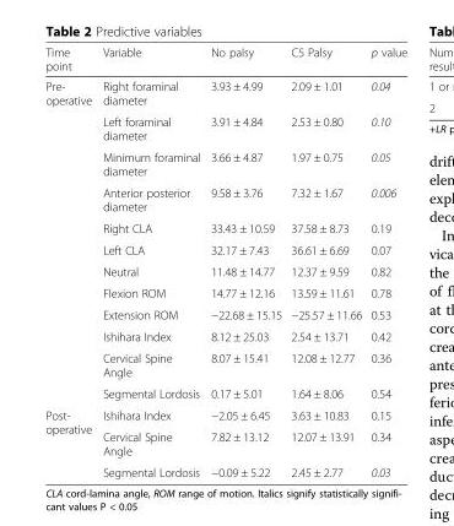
<table><thead><tr><td>Time point</td><td>Variable</td><td>No palsy</td><td>C5 Palsy</td><td>p value</td></tr></thead><tbody><tr><td rowspan="12">Pre- operative</td><td>Right foraminal diameter</td><td>3.93 ± 4.99</td><td>2.09 ± 1.01</td><td>0.04</td></tr><tr><td>Left foraminal diameter</td><td>3.91 ± 4.84</td><td>2.53 ± 0.80</td><td>0.10</td></tr><tr><td>Minimum foraminal diameter</td><td>3.66 ± 4.87</td><td>1.97 ± 0.75</td><td>0.05</td></tr><tr><td>Anterior posterior diameter</td><td>9.58 ± 3.76</td><td>7.32 ± 1.67</td><td>0.006</td></tr><tr><td>Right CLA</td><td>33.43 ± 10.59</td><td>37.58 ± 8.73</td><td>0.19</td></tr><tr><td>Left CLA</td><td>32.17 ± 7.43</td><td>36.61 ± 6.69</td><td>0.07</td></tr><tr><td>Neutral</td><td>11.48 ± 14.77</td><td>12.37 ± 9.59</td><td>0.82</td></tr><tr><td>Flexion ROM</td><td>14.77 ± 12.16</td><td>13.59 ± 11.61</td><td>0.78</td></tr><tr><td>Extension ROM</td><td>−22.68 ± 15.15</td><td>−25.57 ± 11.66</td><td>0.53</td></tr><tr><td>Ishihara Index</td><td>8.12 ± 25.03</td><td>2.54 ± 13.71</td><td>0.42</td></tr><tr><td>Cervical Spine Angle</td><td>8.07 ± 15.41</td><td>12.08 ± 12.77</td><td>0.36</td></tr><tr><td>Segmental Lordosis</td><td>0.17 ± 5.01</td><td>1.64 ± 8.06</td><td>0.54</td></tr><tr><td rowspan="3">Post- operative</td><td>Ishihara Index</td><td>−2.05 ± 6.45</td><td>3.63 ± 10.83</td><td>0.15</td></tr><tr><td>Cervical Spine Angle</td><td>7.82 ± 13.12</td><td>12.07 ± 13.91</td><td>0.34</td></tr><tr><td>Segmental Lordosis</td><td>−0.09 ± 5.22</td><td>2.45 ± 2.77</td><td>0.03</td></tr></tbody></table>